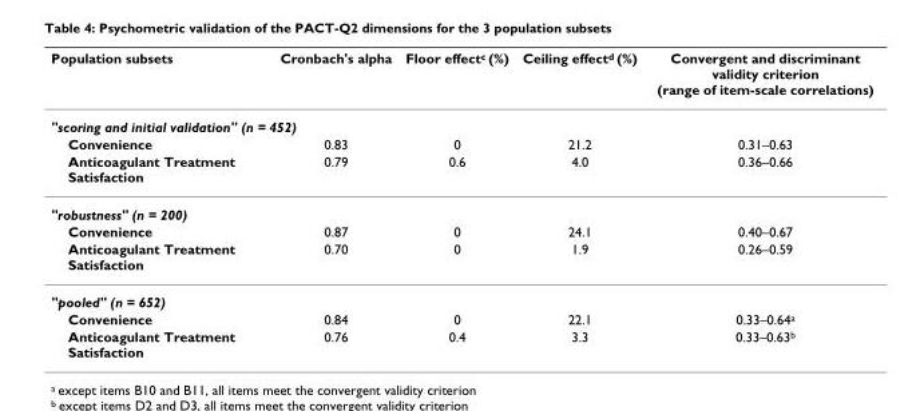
<table><thead><tr><td>Population subsets</td><td>Cronbach&#x27;s alpha</td><td>Floor effect<sup>c</sup> (%)</td><td>Ceiling effect<sup>d</sup> (%)</td><td>Convergent and discriminant validity criterion (range of item-scale correlations)</td></tr></thead><tbody><tr><td colspan="5">&quot;scoring and initial validation&quot; (n = 452)</td></tr><tr><td>Convenience</td><td>0.83</td><td>0</td><td>21.2</td><td>0.31–0.63</td></tr><tr><td>Anticoagulant Treatment Satisfaction</td><td>0.79</td><td>0.6</td><td>4.0</td><td>0.36–0.66</td></tr><tr><td colspan="5">&quot;robustness&quot; (n = 200)</td></tr><tr><td>Convenience</td><td>0.87</td><td>0</td><td>24.1</td><td>0.40–0.67</td></tr><tr><td>Anticoagulant Treatment Satisfaction</td><td>0.70</td><td>0</td><td>1.9</td><td>0.26–0.59</td></tr><tr><td colspan="5">&quot;pooled&quot; (n = 652)</td></tr><tr><td>Convenience</td><td>0.84</td><td>0</td><td>22.1</td><td>0.33–0.64<sup>a</sup></td></tr><tr><td>Anticoagulant Treatment Satisfaction</td><td>0.76</td><td>0.4</td><td>3.3</td><td>0.33–0.63<sup>b</sup></td></tr></tbody></table>